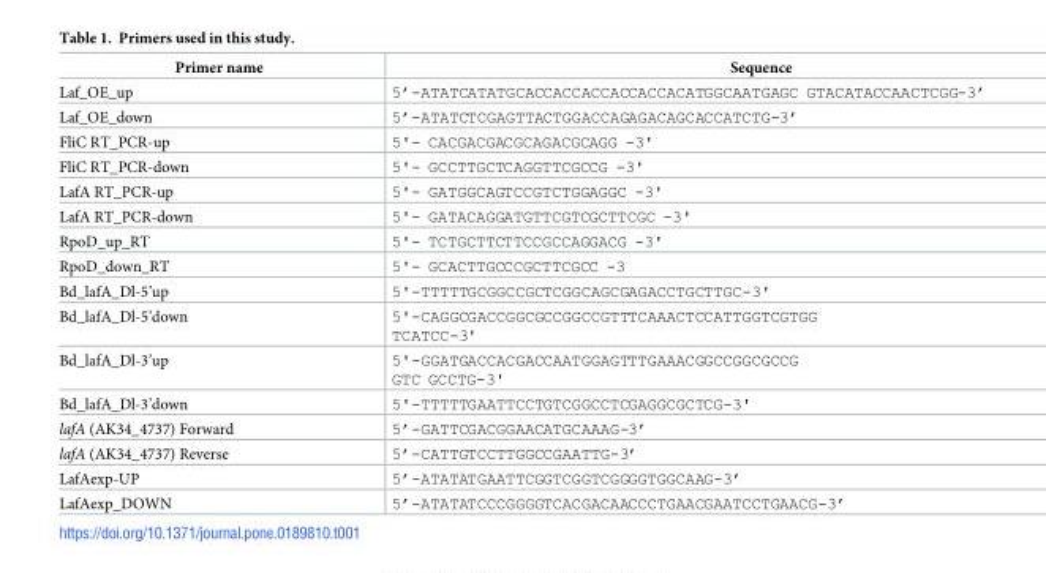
<table><thead><tr><td>Primer name</td><td>Sequence</td></tr></thead><tbody><tr><td>Laf_OE_up</td><td>5’-ATATCATATGCACCACCACCACCACCACATGGCAATGAGC GTACATACCAACTCGG-3’</td></tr><tr><td>Laf_OE_down</td><td>5’-ATATCTCGAGTTACTGGACCAGAGACAGCACCATCTG-3’</td></tr><tr><td>FliC RT_PCR-up</td><td>5&#x27;- CACGACGACGCAGACGCAGG -3&#x27;</td></tr><tr><td>FliC RT_PCR-down</td><td>5&#x27;- GCCTTGCTCAGGTTCGCCG -3&#x27;</td></tr><tr><td>LafA RT_PCR-up</td><td>5&#x27;- GATGGCAGTCCGTCTGGAGGC -3&#x27;</td></tr><tr><td>LafA RT_PCR-down</td><td>5&#x27;- GATACAGGATGTTCGTCGCTTCGC -3&#x27;</td></tr><tr><td>RpoD_up_RT</td><td>5&#x27;- TCTGCTTCTTCCGCCAGGACG -3&#x27;</td></tr><tr><td>RpoD_down_RT</td><td>5&#x27;- GCACTTGCCCGCTTCGCC -3</td></tr><tr><td>Bd_lafA_Dl-5’up</td><td>5&#x27;-TTTTTGCGGCCGCTCGGCAGCGAGACCTGCTTGC-3&#x27;</td></tr><tr><td>Bd_lafA_Dl-5’down</td><td>5&#x27;-CAGGCGACCGGCGCCGGCCGTTTCAAACTCCATTGGTCGTGG TCATCC-3&#x27;</td></tr><tr><td>Bd_lafA_Dl-3’up</td><td>5&#x27;-GGATGACCACGACCAATGGAGTTTGAAACGGCCGGCGCCG GTC GCCTG-3&#x27;</td></tr><tr><td>Bd_lafA_Dl-3’down</td><td>5&#x27;-TTTTTGAATTCCTGTCGGCCTCGAGGCGCTCG-3&#x27;</td></tr><tr><td>lafA (AK34_4737) Forward</td><td>5’-GATTCGACGGAACATGCAAAG-3’</td></tr><tr><td>lafA (AK34_4737) Reverse</td><td>5’-CATTGTCCTTGGCCGAATTG-3’</td></tr><tr><td>LafAexp-UP</td><td>5’-ATATATGAATTCGGTCGGTCGGGGTGGCAAG-3’</td></tr><tr><td>LafAexp_DOWN</td><td>5’-ATATATCCCGGGGTCACGACAACCCTGAACGAATCCTGAACG-3’</td></tr></tbody></table>